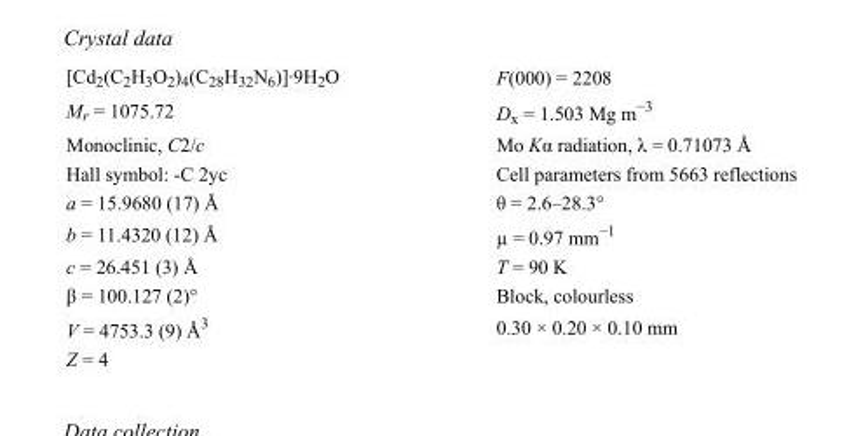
<table><tbody><tr><td>[Cd<sub>2</sub>(C<sub>2</sub>H<sub>3</sub>O<sub>2</sub>)<sub>4</sub>(C<sub>28</sub>H<sub>32</sub>N<sub>6</sub>)]·9H<sub>2</sub>O</td><td>F(000) = 2208</td></tr><tr><td>M<sub>r</sub> = 1075.72</td><td>D<sub>x</sub> = 1.503 Mg m<sup>−3</sup></td></tr><tr><td>Monoclinic, C2/c</td><td>Mo Kα radiation, λ = 0.71073 Å</td></tr><tr><td>Hall symbol: -C 2yc</td><td>Cell parameters from 5663 reflections</td></tr><tr><td>a = 15.9680 (17) Å</td><td>θ = 2.6–28.3°</td></tr><tr><td>b = 11.4320 (12) Å</td><td>µ = 0.97 mm<sup>−1</sup></td></tr><tr><td>c = 26.451 (3) Å</td><td>T = 90 K</td></tr><tr><td>β = 100.127 (2)°</td><td>Block, colourless</td></tr><tr><td>V = 4753.3 (9) Å<sup>3</sup></td><td>0.30 × 0.20 × 0.10 mm</td></tr><tr><td>Z = 4</td><td></td></tr></tbody></table>